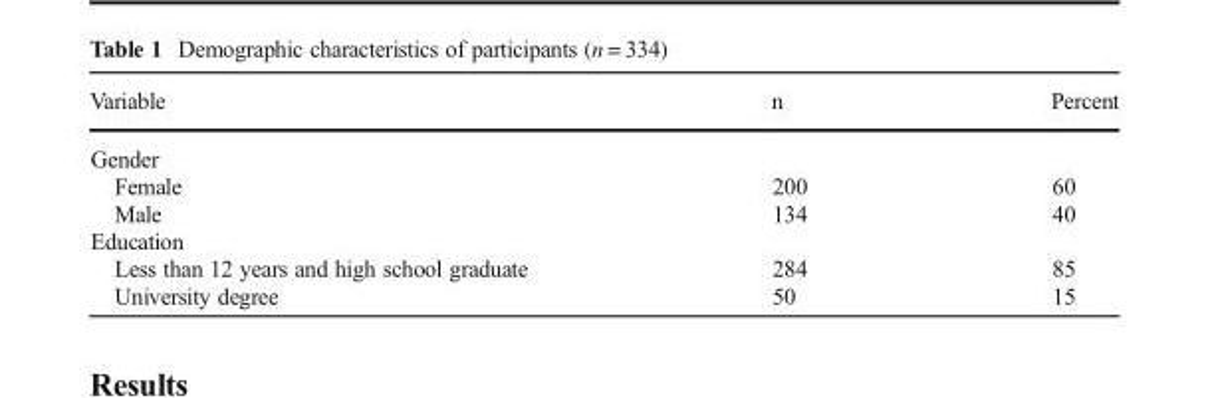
<table><thead><tr><td>Variable</td><td>n</td><td>Percent</td></tr></thead><tbody><tr><td colspan="3">Gender</td></tr><tr><td>Female</td><td>200</td><td>60</td></tr><tr><td>Male</td><td>134</td><td>40</td></tr><tr><td colspan="3">Education</td></tr><tr><td>Less than 12 years and high school graduate</td><td>284</td><td>85</td></tr><tr><td>University degree</td><td>50</td><td>15</td></tr></tbody></table>